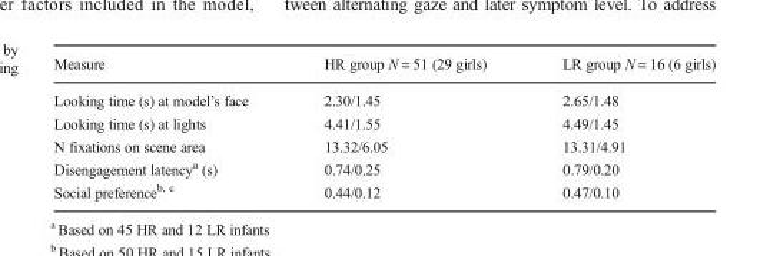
<table><thead><tr><td>Measure</td><td>HR group N = 51 (29 girls)</td><td>LR group N = 16 (6 girls)</td></tr></thead><tbody><tr><td>Looking time (s) at model’s face</td><td>2.30/1.45</td><td>2.65/1.48</td></tr><tr><td>Looking time (s) at lights</td><td>4.41/1.55</td><td>4.49/1.45</td></tr><tr><td>N fixations on scene area</td><td>13.32/6.05</td><td>13.31/4.91</td></tr><tr><td>Disengagement latency<sup>a</sup> (s)</td><td>0.74/0.25</td><td>0.79/0.20</td></tr><tr><td>Social preference<sup>b, c</sup></td><td>0.44/0.12</td><td>0.47/0.10</td></tr></tbody></table>